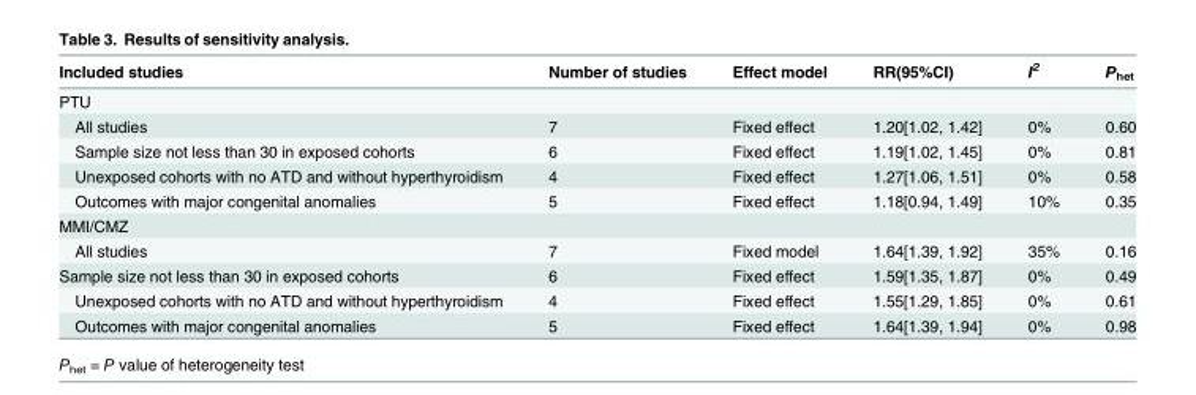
<table><thead><tr><td>Included studies</td><td>Number of studies</td><td>Effect model</td><td>RR(95%CI)</td><td>I<sup>2</sup></td><td>P<sub>het</sub></td></tr></thead><tbody><tr><td colspan="6">PTU</td></tr><tr><td>All studies</td><td>7</td><td>Fixed effect</td><td>1.20[1.02, 1.42]</td><td>0%</td><td>0.60</td></tr><tr><td>Sample size not less than 30 in exposed cohorts</td><td>6</td><td>Fixed effect</td><td>1.19[1.02, 1.45]</td><td>0%</td><td>0.81</td></tr><tr><td>Unexposed cohorts with no ATD and without hyperthyroidism</td><td>4</td><td>Fixed effect</td><td>1.27[1.06, 1.51]</td><td>0%</td><td>0.58</td></tr><tr><td>Outcomes with major congenital anomalies</td><td>5</td><td>Fixed effect</td><td>1.18[0.94, 1.49]</td><td>10%</td><td>0.35</td></tr><tr><td colspan="6">MMI/CMZ</td></tr><tr><td>All studies</td><td>7</td><td>Fixed model</td><td>1.64[1.39, 1.92]</td><td>35%</td><td>0.16</td></tr><tr><td>Sample size not less than 30 in exposed cohorts</td><td>6</td><td>Fixed effect</td><td>1.59[1.35, 1.87]</td><td>0%</td><td>0.49</td></tr><tr><td>Unexposed cohorts with no ATD and without hyperthyroidism</td><td>4</td><td>Fixed effect</td><td>1.55[1.29, 1.85]</td><td>0%</td><td>0.61</td></tr><tr><td>Outcomes with major congenital anomalies</td><td>5</td><td>Fixed effect</td><td>1.64[1.39, 1.94]</td><td>0%</td><td>0.98</td></tr></tbody></table>